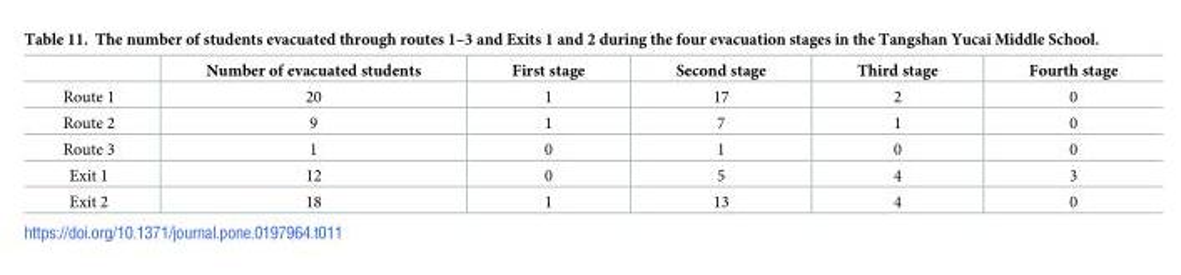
<table><thead><tr><td></td><td>Number of evacuated students</td><td>First stage</td><td>Second stage</td><td>Third stage</td><td>Fourth stage</td></tr></thead><tbody><tr><td>Route 1</td><td>20</td><td>1</td><td>17</td><td>2</td><td>0</td></tr><tr><td>Route 2</td><td>9</td><td>1</td><td>7</td><td>1</td><td>0</td></tr><tr><td>Route 3</td><td>1</td><td>0</td><td>1</td><td>0</td><td>0</td></tr><tr><td>Exit 1</td><td>12</td><td>0</td><td>5</td><td>4</td><td>3</td></tr><tr><td>Exit 2</td><td>18</td><td>1</td><td>13</td><td>4</td><td>0</td></tr></tbody></table>